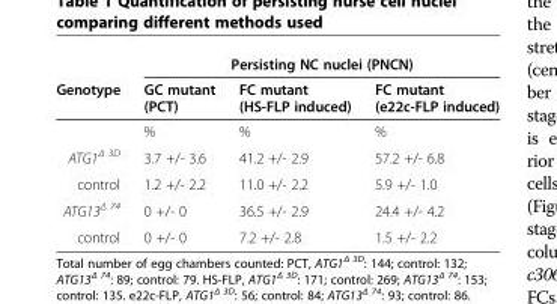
<table><thead><tr><td rowspan="2">Genotype</td><td colspan="3">Persisting NC nuclei (PNCN)</td></tr><tr><td>GC mutant (PCT)</td><td>FC mutant (HS-FLP induced)</td><td>FC mutant (e22c-FLP induced)</td></tr></thead><tbody><tr><td></td><td>%</td><td>%</td><td>%</td></tr><tr><td>ATG1Δ 3D</td><td>3.7 +/- 3.6</td><td>41.2 +/- 2.9</td><td>57.2 +/- 6.8</td></tr><tr><td>control</td><td>1.2 +/- 2.2</td><td>11.0 +/- 2.2</td><td>5.9 +/- 1.0</td></tr><tr><td>ATG13Δ 74</td><td>0 +/- 0</td><td>36.5 +/- 2.9</td><td>24.4 +/- 4.2</td></tr><tr><td>control</td><td>0 +/- 0</td><td>7.2 +/- 2.8</td><td>1.5 +/- 2.2</td></tr></tbody></table>